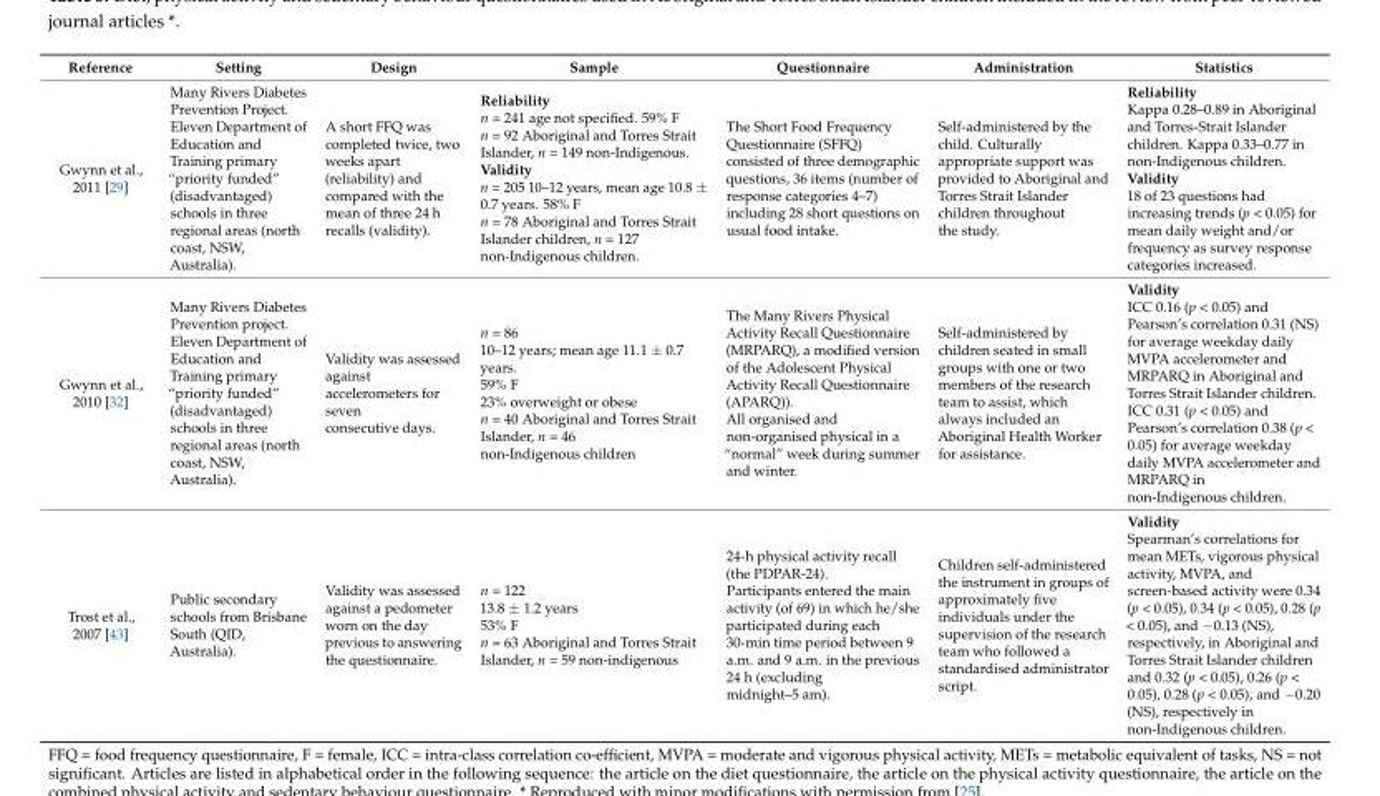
<table><thead><tr><td>Reference</td><td>Setting</td><td>Design</td><td>Sample</td><td>Questionnaire</td><td>Administration</td><td>Statistics</td></tr></thead><tbody><tr><td>Gwynn et al., 2011 [29]</td><td>Many Rivers Diabetes Prevention Project. Eleven Department of Education and Training primary “priority funded” (disadvantaged) schools in three regional areas (north coast, NSW, Australia).</td><td>A short FFQ was completed twice, two weeks apart (reliability) and compared with the mean of three 24 h recalls (validity).</td><td>Reliability n = 241 age not specified. 59% F n = 92 Aboriginal and Torres Strait Islander, n = 149 non-Indigenous. Validity n = 205 10–12 years, mean age 10.8 ± 0.7 years. 58% F n = 78 Aboriginal and Torres Strait Islander children, n = 127 non-Indigenous children.</td><td>The Short Food Frequency Questionnaire (SFFQ) consisted of three demographic questions, 36 items (number of response categories 4–7) including 28 short questions on usual food intake.</td><td>Self-administered by the child. Culturally appropriate support was provided to Aboriginal and Torres Strait Islander children throughout the study.</td><td>Reliability Kappa 0.28–0.89 in Aboriginal and Torres-Strait Islander children. Kappa 0.33–0.77 in non-Indigenous children. Validity 18 of 23 questions had increasing trends (p &lt; 0.05) for mean daily weight and/or frequency as survey response categories increased.</td></tr><tr><td>Gwynn et al., 2010 [32]</td><td>Many Rivers Diabetes Prevention project. Eleven Department of Education and Training primary “priority funded” (disadvantaged) schools in three regional areas (north coast, NSW, Australia).</td><td>Validity was assessed against accelerometers for seven consecutive days.</td><td>n = 86 10–12 years; mean age 11.1 ± 0.7 years. 59% F 23% overweight or obese n = 40 Aboriginal and Torres Strait Islander, n = 46 non-Indigenous children</td><td>The Many Rivers Physical Activity Recall Questionnaire (MRPARQ), a modified version of the Adolescent Physical Activity Recall Questionnaire (APARQ)). All organised and non-organised physical in a “normal” week during summer and winter.</td><td>Self-administered by children seated in small groups with one or two members of the research team to assist, which always included an Aboriginal Health Worker for assistance.</td><td>Validity ICC 0.16 (p &lt; 0.05) and Pearson’s correlation 0.31 (NS) for average weekday daily MVPA accelerometer and MRPARQ in Aboriginal and Torres Strait Islander children. ICC 0.31 (p &lt; 0.05) and Pearson’s correlation 0.38 (p &lt; 0.05) for average weekday daily MVPA accelerometer and MRPARQ in non-Indigenous children.</td></tr><tr><td>Trost et al., 2007 [43]</td><td>Public secondary schools from Brisbane South (QID, Australia).</td><td>Validity was assessed against a pedometer worn on the day previous to answering the questionnaire.</td><td>n = 122 13.8 ± 1.2 years 53% F n = 63 Aboriginal and Torres Strait Islander, n = 59 non-indigenous</td><td>24-h physical activity recall (the PDPAR-24). Participants entered the main activity (of 69) in which he/she participated during each 30-min time period between 9 a.m. and 9 a.m. in the previous 24 h (excluding midnight–5 am).</td><td>Children self-administered the instrument in groups of approximately five individuals under the supervision of the research team who followed a standardised administrator script.</td><td>Validity Spearman’s correlations for mean METs, vigorous physical activity, MVPA, and screen-based activity were 0.34 (p &lt; 0.05), 0.34 (p &lt; 0.05), 0.28 (p &lt; 0.05), and −0.13 (NS), respectively, in Aboriginal and Torres Strait Islander children and 0.32 (p &lt; 0.05), 0.26 (p &lt; 0.05), 0.28 (p &lt; 0.05), and −0.20 (NS), respectively in non-Indigenous children.</td></tr></tbody></table>